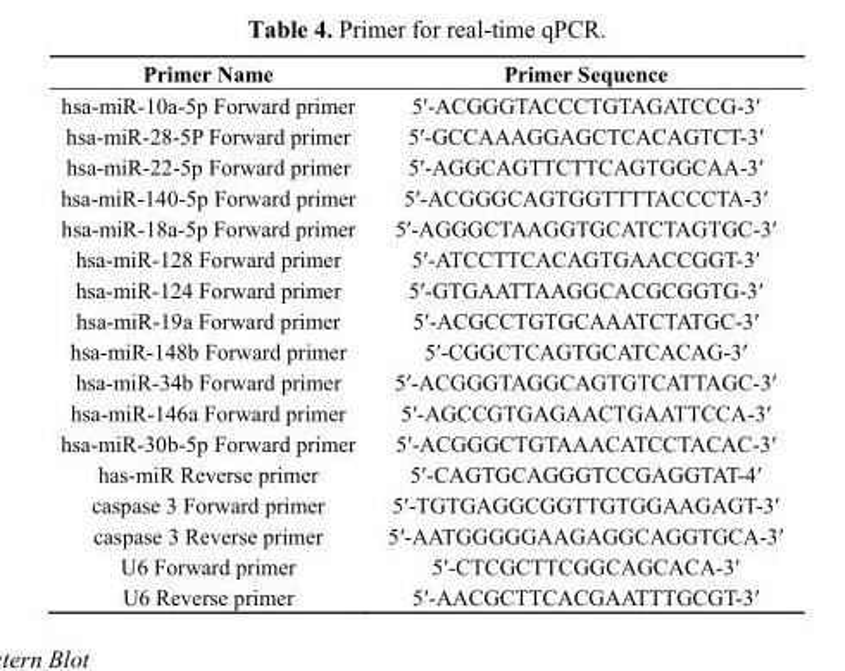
<table><thead><tr><td>Primer Name</td><td>Primer Sequence</td></tr></thead><tbody><tr><td>hsa-miR-10a-5p Forward primer</td><td>5′-ACGGGTACCCTGTAGATCCG-3′</td></tr><tr><td>hsa-miR-28-5P Forward primer</td><td>5′-GCCAAAGGAGCTCACAGTCT-3′</td></tr><tr><td>hsa-miR-22-5p Forward primer</td><td>5′-AGGCAGTTCTTCAGTGGCAA-3′</td></tr><tr><td>hsa-miR-140-5p Forward primer</td><td>5′-ACGGGCAGTGGTTTTACCCTA-3′</td></tr><tr><td>hsa-miR-18a-5p Forward primer</td><td>5′-AGGGCTAAGGTGCATCTAGTGC-3′</td></tr><tr><td>hsa-miR-128 Forward primer</td><td>5′-ATCCTTCACAGTGAACCGGT-3′</td></tr><tr><td>hsa-miR-124 Forward primer</td><td>5′-GTGAATTAAGGCACGCGGTG-3′</td></tr><tr><td>hsa-miR-19a Forward primer</td><td>5′-ACGCCTGTGCAAATCTATGC-3′</td></tr><tr><td>hsa-miR-148b Forward primer</td><td>5′-CGGCTCAGTGCATCACAG-3′</td></tr><tr><td>hsa-miR-34b Forward primer</td><td>5′-ACGGGTAGGCAGTGTCATTAGC-3′</td></tr><tr><td>hsa-miR-146a Forward primer</td><td>5′-AGCCGTGAGAACTGAATTCCA-3′</td></tr><tr><td>hsa-miR-30b-5p Forward primer</td><td>5′-ACGGGCTGTAAACATCCTACAC-3′</td></tr><tr><td>has-miR Reverse primer</td><td>5′-CAGTGCAGGGTCCGAGGTAT-4′</td></tr><tr><td>caspase 3 Forward primer</td><td>5′-TGTGAGGCGGTTGTGGAAGAGT-3′</td></tr><tr><td>caspase 3 Reverse primer</td><td>5′-AATGGGGGAAGAGGCAGGTGCA-3′</td></tr><tr><td>U6 Forward primer</td><td>5′-CTCGCTTCGGCAGCACA-3′</td></tr><tr><td>U6 Reverse primer</td><td>5′-AACGCTTCACGAATTTGCGT-3′</td></tr></tbody></table>